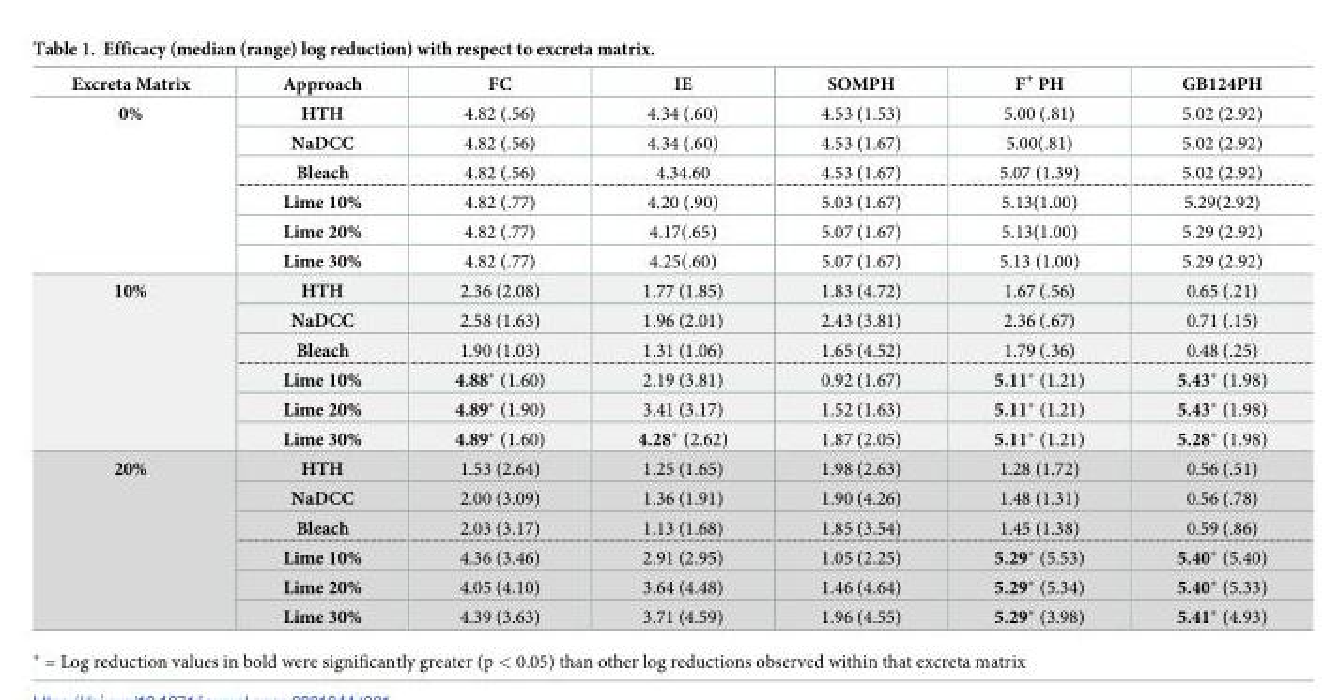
<table><thead><tr><td>Excreta Matrix</td><td>Approach</td><td>FC</td><td>IE</td><td>SOMPH</td><td>F<sup>+</sup> PH</td><td>GB124PH</td></tr></thead><tbody><tr><td rowspan="6">0%</td><td>HTH</td><td>4.82 (.56)</td><td>4.34 (.60)</td><td>4.53 (1.53)</td><td>5.00 (.81)</td><td>5.02 (2.92)</td></tr><tr><td>NaDCC</td><td>4.82 (.56)</td><td>4.34 (.60)</td><td>4.53 (1.67)</td><td>5.00(.81)</td><td>5.02 (2.92)</td></tr><tr><td>Bleach</td><td>4.82 (.56)</td><td>4.34.60</td><td>4.53 (1.67)</td><td>5.07 (1.39)</td><td>5.02 (2.92)</td></tr><tr><td>Lime 10%</td><td>4.82 (.77)</td><td>4.20 (.90)</td><td>5.03 (1.67)</td><td>5.13(1.00)</td><td>5.29(2.92)</td></tr><tr><td>Lime 20%</td><td>4.82 (.77)</td><td>4.17(.65)</td><td>5.07 (1.67)</td><td>5.13(1.00)</td><td>5.29 (2.92)</td></tr><tr><td>Lime 30%</td><td>4.82 (.77)</td><td>4.25(.60)</td><td>5.07 (1.67)</td><td>5.13 (1.00)</td><td>5.29 (2.92)</td></tr><tr><td rowspan="6">10%</td><td>HTH</td><td>2.36 (2.08)</td><td>1.77 (1.85)</td><td>1.83 (4.72)</td><td>1.67 (.56)</td><td>0.65 (.21)</td></tr><tr><td>NaDCC</td><td>2.58 (1.63)</td><td>1.96 (2.01)</td><td>2.43 (3.81)</td><td>2.36 (.67)</td><td>0.71 (.15)</td></tr><tr><td>Bleach</td><td>1.90 (1.03)</td><td>1.31 (1.06)</td><td>1.65 (4.52)</td><td>1.79 (.36)</td><td>0.48 (.25)</td></tr><tr><td>Lime 10%</td><td>4.88* (1.60)</td><td>2.19 (3.81)</td><td>0.92 (1.67)</td><td>5.11* (1.21)</td><td>5.43* (1.98)</td></tr><tr><td>Lime 20%</td><td>4.89* (1.90)</td><td>3.41 (3.17)</td><td>1.52 (1.63)</td><td>5.11* (1.21)</td><td>5.43* (1.98)</td></tr><tr><td>Lime 30%</td><td>4.89* (1.60)</td><td>4.28* (2.62)</td><td>1.87 (2.05)</td><td>5.11* (1.21)</td><td>5.28* (1.98)</td></tr><tr><td rowspan="6">20%</td><td>HTH</td><td>1.53 (2.64)</td><td>1.25 (1.65)</td><td>1.98 (2.63)</td><td>1.28 (1.72)</td><td>0.56 (.51)</td></tr><tr><td>NaDCC</td><td>2.00 (3.09)</td><td>1.36 (1.91)</td><td>1.90 (4.26)</td><td>1.48 (1.31)</td><td>0.56 (.78)</td></tr><tr><td>Bleach</td><td>2.03 (3.17)</td><td>1.13 (1.68)</td><td>1.85 (3.54)</td><td>1.45 (1.38)</td><td>0.59 (.86)</td></tr><tr><td>Lime 10%</td><td>4.36 (3.46)</td><td>2.91 (2.95)</td><td>1.05 (2.25)</td><td>5.29* (5.53)</td><td>5.40* (5.40)</td></tr><tr><td>Lime 20%</td><td>4.05 (4.10)</td><td>3.64 (4.48)</td><td>1.46 (4.64)</td><td>5.29* (5.34)</td><td>5.40* (5.33)</td></tr><tr><td>Lime 30%</td><td>4.39 (3.63)</td><td>3.71 (4.59)</td><td>1.96 (4.55)</td><td>5.29* (3.98)</td><td>5.41* (4.93)</td></tr></tbody></table>